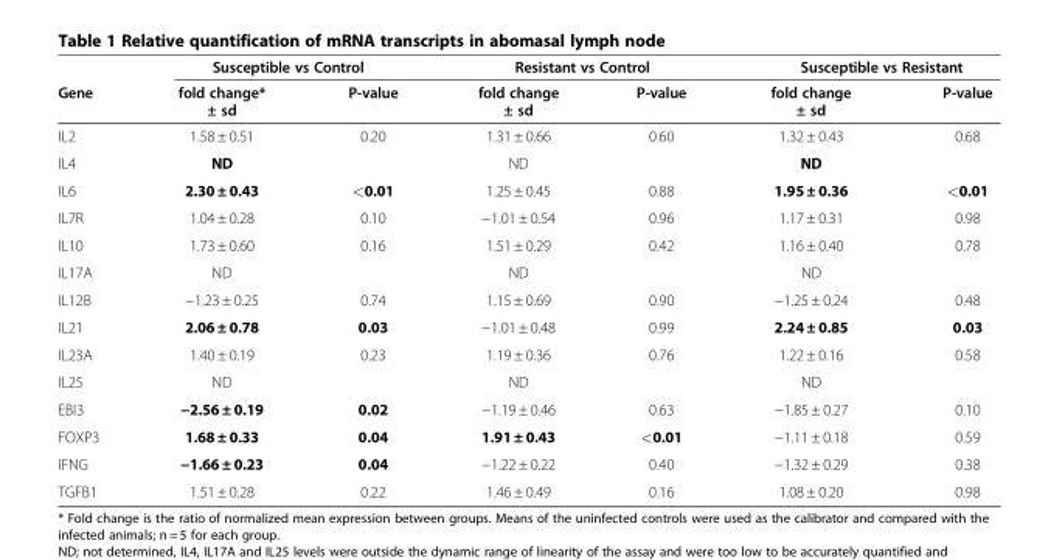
<table><thead><tr><td rowspan="2">Gene</td><td colspan="2">Susceptible vs Control</td><td colspan="2">Resistant vs Control</td><td colspan="2">Susceptible vs Resistant</td></tr><tr><td>fold change* ± sd</td><td>P-value</td><td>fold change ± sd</td><td>P-value</td><td>fold change ± sd</td><td>P-value</td></tr></thead><tbody><tr><td>IL2</td><td>1.58 ± 0.51</td><td>0.20</td><td>1.31 ± 0.66</td><td>0.60</td><td>1.32 ± 0.43</td><td>0.68</td></tr><tr><td>IL4</td><td>ND</td><td></td><td>ND</td><td></td><td>ND</td><td></td></tr><tr><td>IL6</td><td>2.30 ± 0.43</td><td>&lt;0.01</td><td>1.25 ± 0.45</td><td>0.88</td><td>1.95 ± 0.36</td><td>&lt;0.01</td></tr><tr><td>IL7R</td><td>1.04 ± 0.28</td><td>0.10</td><td>−1.01 ± 0.54</td><td>0.96</td><td>1.17 ± 0.31</td><td>0.98</td></tr><tr><td>IL10</td><td>1.73 ± 0.60</td><td>0.16</td><td>1.51 ± 0.29</td><td>0.42</td><td>1.16 ± 0.40</td><td>0.78</td></tr><tr><td>IL17A</td><td>ND</td><td></td><td>ND</td><td></td><td>ND</td><td></td></tr><tr><td>IL12B</td><td>−1.23 ± 0.25</td><td>0.74</td><td>1.15 ± 0.69</td><td>0.90</td><td>−1.25 ± 0.24</td><td>0.48</td></tr><tr><td>IL21</td><td>2.06 ± 0.78</td><td>0.03</td><td>−1.01 ± 0.48</td><td>0.99</td><td>2.24 ± 0.85</td><td>0.03</td></tr><tr><td>IL23A</td><td>1.40 ± 0.19</td><td>0.23</td><td>1.19 ± 0.36</td><td>0.76</td><td>1.22 ± 0.16</td><td>0.58</td></tr><tr><td>IL25</td><td>ND</td><td></td><td>ND</td><td></td><td>ND</td><td></td></tr><tr><td>EBI3</td><td>−2.56 ± 0.19</td><td>0.02</td><td>−1.19 ± 0.46</td><td>0.63</td><td>−1.85 ± 0.27</td><td>0.10</td></tr><tr><td>FOXP3</td><td>1.68 ± 0.33</td><td>0.04</td><td>1.91 ± 0.43</td><td>&lt;0.01</td><td>−1.11 ± 0.18</td><td>0.59</td></tr><tr><td>IFNG</td><td>−1.66 ± 0.23</td><td>0.04</td><td>−1.22 ± 0.22</td><td>0.40</td><td>−1.32 ± 0.29</td><td>0.38</td></tr><tr><td>TGFB1</td><td>1.51 ± 0.28</td><td>0.22</td><td>1.46 ± 0.49</td><td>0.16</td><td>1.08 ± 0.20</td><td>0.98</td></tr></tbody></table>